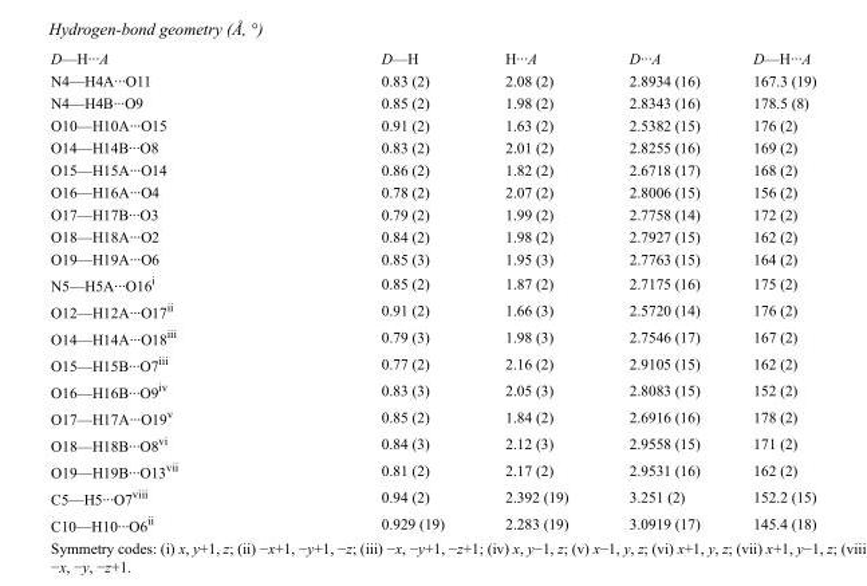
<table><tbody><tr><td>D—H···A</td><td>D—H</td><td>H···A</td><td>D···A</td><td>D—H···A</td></tr><tr><td>N4—H4A···O11</td><td>0.83 (2)</td><td>2.08 (2)</td><td>2.8934 (16)</td><td>167.3 (19)</td></tr><tr><td>N4—H4B···O9</td><td>0.85 (2)</td><td>1.98 (2)</td><td>2.8343 (16)</td><td>178.5 (8)</td></tr><tr><td>O10—H10A···O15</td><td>0.91 (2)</td><td>1.63 (2)</td><td>2.5382 (15)</td><td>176 (2)</td></tr><tr><td>O14—H14B···O8</td><td>0.83 (2)</td><td>2.01 (2)</td><td>2.8255 (16)</td><td>169 (2)</td></tr><tr><td>O15—H15A···O14</td><td>0.86 (2)</td><td>1.82 (2)</td><td>2.6718 (17)</td><td>168 (2)</td></tr><tr><td>O16—H16A···O4</td><td>0.78 (2)</td><td>2.07 (2)</td><td>2.8006 (15)</td><td>156 (2)</td></tr><tr><td>O17—H17B···O3</td><td>0.79 (2)</td><td>1.99 (2)</td><td>2.7758 (14)</td><td>172 (2)</td></tr><tr><td>O18—H18A···O2</td><td>0.84 (2)</td><td>1.98 (2)</td><td>2.7927 (15)</td><td>162 (2)</td></tr><tr><td>O19—H19A···O6</td><td>0.85 (3)</td><td>1.95 (3)</td><td>2.7763 (15)</td><td>164 (2)</td></tr><tr><td>N5—H5A···O16<sup>i</sup></td><td>0.85 (2)</td><td>1.87 (2)</td><td>2.7175 (16)</td><td>175 (2)</td></tr><tr><td>O12—H12A···O17<sup>ii</sup></td><td>0.91 (2)</td><td>1.66 (3)</td><td>2.5720 (14)</td><td>176 (2)</td></tr><tr><td>O14—H14A···O18<sup>iii</sup></td><td>0.79 (3)</td><td>1.98 (3)</td><td>2.7546 (17)</td><td>167 (2)</td></tr><tr><td>O15—H15B···O7<sup>iii</sup></td><td>0.77 (2)</td><td>2.16 (2)</td><td>2.9105 (15)</td><td>162 (2)</td></tr><tr><td>O16—H16B···O9<sup>iv</sup></td><td>0.83 (3)</td><td>2.05 (3)</td><td>2.8083 (15)</td><td>152 (2)</td></tr><tr><td>O17—H17A···O19<sup>v</sup></td><td>0.85 (2)</td><td>1.84 (2)</td><td>2.6916 (16)</td><td>178 (2)</td></tr><tr><td>O18—H18B···O8<sup>vi</sup></td><td>0.84 (3)</td><td>2.12 (3)</td><td>2.9558 (15)</td><td>171 (2)</td></tr><tr><td>O19—H19B···O13<sup>vii</sup></td><td>0.81 (2)</td><td>2.17 (2)</td><td>2.9531 (16)</td><td>162 (2)</td></tr><tr><td>C5—H5···O7<sup>viii</sup></td><td>0.94 (2)</td><td>2.392 (19)</td><td>3.251 (2)</td><td>152.2 (15)</td></tr><tr><td>C10—H10···O6<sup>ii</sup></td><td>0.929 (19)</td><td>2.283 (19)</td><td>3.0919 (17)</td><td>145.4 (18)</td></tr></tbody></table>